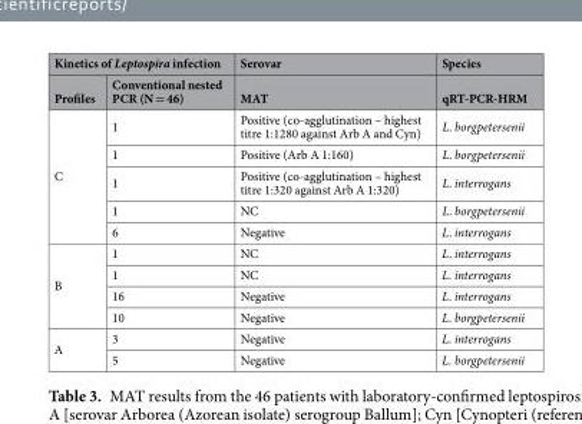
<table><thead><tr><td colspan="2">Kinetics of Leptospira infection</td><td rowspan="2">Serovar MAT</td><td rowspan="2">Species qRT-PCR-HRM</td></tr><tr><td>Profiles</td><td>Conventional nested PCR (N = 46)</td></tr></thead><tbody><tr><td rowspan="5">C</td><td>1</td><td>Positive (co-agglutination – highest titre 1:1280 against Arb A and Cyn)</td><td>L. borgpetersenii</td></tr><tr><td>1</td><td>Positive (Arb A 1:160)</td><td>L. borgpetersenii</td></tr><tr><td>1</td><td>Positive (co-agglutination – highest titre 1:320 against Arb A 1:320)</td><td>L. interrogans</td></tr><tr><td>1</td><td>NC</td><td>L. borgpetersenii</td></tr><tr><td>6</td><td>Negative</td><td>L. interrogans</td></tr><tr><td rowspan="4">B</td><td>1</td><td>NC</td><td>L. interrogans</td></tr><tr><td>1</td><td>NC</td><td>L. interrogans</td></tr><tr><td>16</td><td>Negative</td><td>L. interrogans</td></tr><tr><td>10</td><td>Negative</td><td>L. borgpetersenii</td></tr><tr><td rowspan="2">A</td><td>3</td><td>Negative</td><td>L. interrogans</td></tr><tr><td>5</td><td>Negative</td><td>L. borgpetersenii</td></tr></tbody></table>